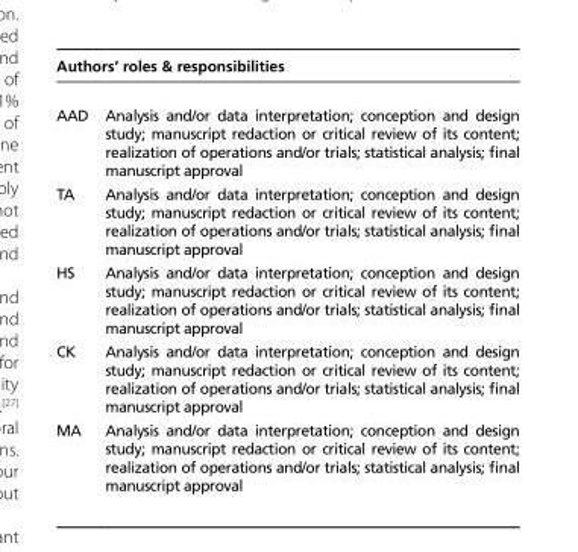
<table><thead><tr><td colspan="2">Authors’ roles &amp; responsibilities</td></tr><tr><td>AAD</td><td>Analysis and/or data interpretation; conception and design study; manuscript redaction or critical review of its content; realization of operations and/or trials; statistical analysis; final manuscript approval</td></tr></thead><tbody><tr><td>TA</td><td>Analysis and/or data interpretation; conception and design study; manuscript redaction or critical review of its content; realization of operations and/or trials; statistical analysis; final manuscript approval</td></tr><tr><td>HS</td><td>Analysis and/or data interpretation; conception and design study; manuscript redaction or critical review of its content; realization of operations and/or trials; statistical analysis; final manuscript approval</td></tr><tr><td>CK</td><td>Analysis and/or data interpretation; conception and design study; manuscript redaction or critical review of its content; realization of operations and/or trials; statistical analysis; final manuscript approval</td></tr><tr><td>MA</td><td>Analysis and/or data interpretation; conception and design study; manuscript redaction or critical review of its content; realization of operations and/or trials; statistical analysis; final manuscript approval</td></tr></tbody></table>